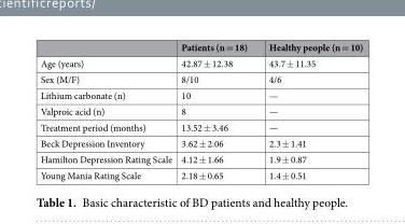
<table><thead><tr><td></td><td>Patients (n = 18)</td><td>Healthy people (n = 10)</td></tr></thead><tbody><tr><td>Age (years)</td><td>42.87 ± 12.38</td><td>43.7 ± 11.35</td></tr><tr><td>Sex (M/F)</td><td>8/10</td><td>4/6</td></tr><tr><td>Lithium carbonate (n)</td><td>10</td><td>—</td></tr><tr><td>Valproic acid (n)</td><td>8</td><td>—</td></tr><tr><td>Treatment period (months)</td><td>13.52 ± 3.46</td><td>—</td></tr><tr><td>Beck Depression Inventory</td><td>3.62 ± 2.06</td><td>2.3 ± 1.41</td></tr><tr><td>Hamilton Depression Rating Scale</td><td>4.12 ± 1.66</td><td>1.9 ± 0.87</td></tr><tr><td>Young Mania Rating Scale</td><td>2.18 ± 0.65</td><td>1.4 ± 0.51</td></tr></tbody></table>